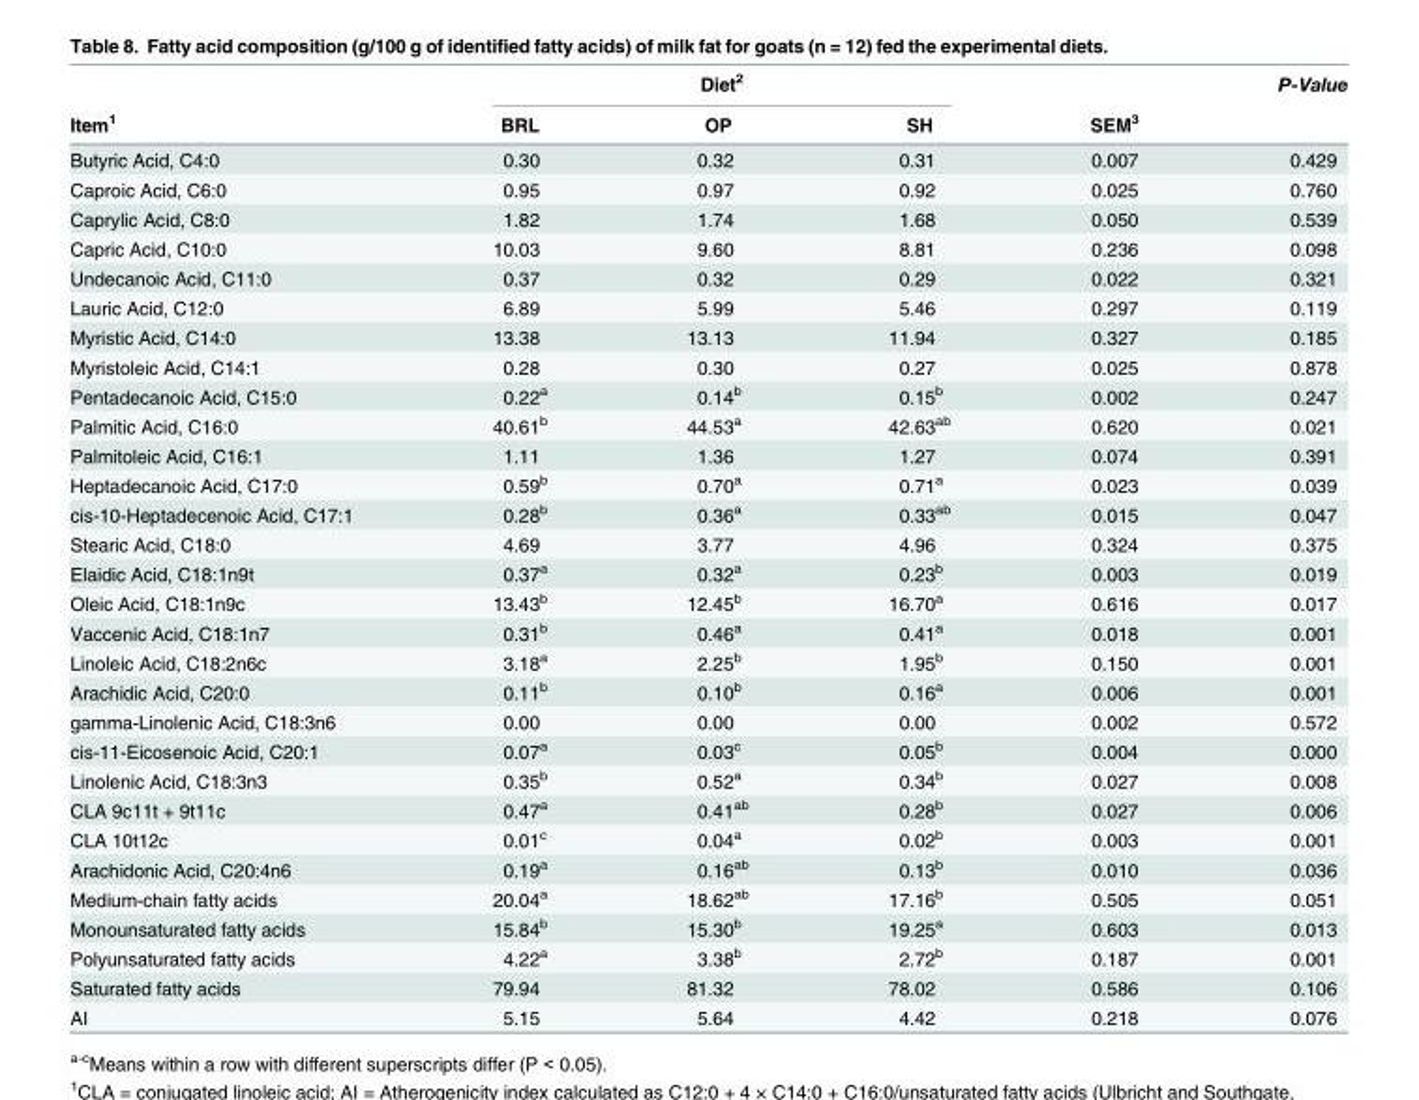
<table><thead><tr><td rowspan="2">Item<sup>1</sup></td><td colspan="3">Diet<sup>2</sup></td><td rowspan="2">SEM<sup>3</sup></td><td rowspan="2">P-Value</td></tr><tr><td>BRL</td><td>OP</td><td>SH</td></tr></thead><tbody><tr><td>Butyric Acid, C4:0</td><td>0.30</td><td>0.32</td><td>0.31</td><td>0.007</td><td>0.429</td></tr><tr><td>Caproic Acid, C6:0</td><td>0.95</td><td>0.97</td><td>0.92</td><td>0.025</td><td>0.760</td></tr><tr><td>Caprylic Acid, C8:0</td><td>1.82</td><td>1.74</td><td>1.68</td><td>0.050</td><td>0.539</td></tr><tr><td>Capric Acid, C10:0</td><td>10.03</td><td>9.60</td><td>8.81</td><td>0.236</td><td>0.098</td></tr><tr><td>Undecanoic Acid, C11:0</td><td>0.37</td><td>0.32</td><td>0.29</td><td>0.022</td><td>0.321</td></tr><tr><td>Lauric Acid, C12:0</td><td>6.89</td><td>5.99</td><td>5.46</td><td>0.297</td><td>0.119</td></tr><tr><td>Myristic Acid, C14:0</td><td>13.38</td><td>13.13</td><td>11.94</td><td>0.327</td><td>0.185</td></tr><tr><td>Myristoleic Acid, C14:1</td><td>0.28</td><td>0.30</td><td>0.27</td><td>0.025</td><td>0.878</td></tr><tr><td>Pentadecanoic Acid, C15:0</td><td>0.22<sup>a</sup></td><td>0.14<sup>b</sup></td><td>0.15<sup>b</sup></td><td>0.002</td><td>0.247</td></tr><tr><td>Palmitic Acid, C16:0</td><td>40.61<sup>b</sup></td><td>44.53<sup>a</sup></td><td>42.63<sup>ab</sup></td><td>0.620</td><td>0.021</td></tr><tr><td>Palmitoleic Acid, C16:1</td><td>1.11</td><td>1.36</td><td>1.27</td><td>0.074</td><td>0.391</td></tr><tr><td>Heptadecanoic Acid, C17:0</td><td>0.59<sup>b</sup></td><td>0.70<sup>a</sup></td><td>0.71<sup>a</sup></td><td>0.023</td><td>0.039</td></tr><tr><td>cis-10-Heptadecenoic Acid, C17:1</td><td>0.28<sup>b</sup></td><td>0.36<sup>a</sup></td><td>0.33<sup>ab</sup></td><td>0.015</td><td>0.047</td></tr><tr><td>Stearic Acid, C18:0</td><td>4.69</td><td>3.77</td><td>4.96</td><td>0.324</td><td>0.375</td></tr><tr><td>Elaidic Acid, C18:1n9t</td><td>0.37<sup>a</sup></td><td>0.32<sup>a</sup></td><td>0.23<sup>b</sup></td><td>0.003</td><td>0.019</td></tr><tr><td>Oleic Acid, C18:1n9c</td><td>13.43<sup>b</sup></td><td>12.45<sup>b</sup></td><td>16.70<sup>a</sup></td><td>0.616</td><td>0.017</td></tr><tr><td>Vaccenic Acid, C18:1n7</td><td>0.31<sup>b</sup></td><td>0.46<sup>a</sup></td><td>0.41<sup>a</sup></td><td>0.018</td><td>0.001</td></tr><tr><td>Linoleic Acid, C18:2n6c</td><td>3.18<sup>a</sup></td><td>2.25<sup>b</sup></td><td>1.95<sup>b</sup></td><td>0.150</td><td>0.001</td></tr><tr><td>Arachidic Acid, C20:0</td><td>0.11<sup>b</sup></td><td>0.10<sup>b</sup></td><td>0.16<sup>a</sup></td><td>0.006</td><td>0.001</td></tr><tr><td>gamma-Linolenic Acid, C18:3n6</td><td>0.00</td><td>0.00</td><td>0.00</td><td>0.002</td><td>0.572</td></tr><tr><td>cis-11-Eicosenoic Acid, C20:1</td><td>0.07<sup>a</sup></td><td>0.03<sup>c</sup></td><td>0.05<sup>b</sup></td><td>0.004</td><td>0.000</td></tr><tr><td>Linolenic Acid, C18:3n3</td><td>0.35<sup>b</sup></td><td>0.52<sup>a</sup></td><td>0.34<sup>b</sup></td><td>0.027</td><td>0.008</td></tr><tr><td>CLA 9c11t + 9t11c</td><td>0.47<sup>a</sup></td><td>0.41<sup>ab</sup></td><td>0.28<sup>b</sup></td><td>0.027</td><td>0.006</td></tr><tr><td>CLA 10t12c</td><td>0.01<sup>c</sup></td><td>0.04<sup>a</sup></td><td>0.02<sup>b</sup></td><td>0.003</td><td>0.001</td></tr><tr><td>Arachidonic Acid, C20:4n6</td><td>0.19<sup>a</sup></td><td>0.16<sup>ab</sup></td><td>0.13<sup>b</sup></td><td>0.010</td><td>0.036</td></tr><tr><td>Medium-chain fatty acids</td><td>20.04<sup>a</sup></td><td>18.62<sup>ab</sup></td><td>17.16<sup>b</sup></td><td>0.505</td><td>0.051</td></tr><tr><td>Monounsaturated fatty acids</td><td>15.84<sup>b</sup></td><td>15.30<sup>b</sup></td><td>19.25<sup>a</sup></td><td>0.603</td><td>0.013</td></tr><tr><td>Polyunsaturated fatty acids</td><td>4.22<sup>a</sup></td><td>3.38<sup>b</sup></td><td>2.72<sup>b</sup></td><td>0.187</td><td>0.001</td></tr><tr><td>Saturated fatty acids</td><td>79.94</td><td>81.32</td><td>78.02</td><td>0.586</td><td>0.106</td></tr><tr><td>AI</td><td>5.15</td><td>5.64</td><td>4.42</td><td>0.218</td><td>0.076</td></tr></tbody></table>